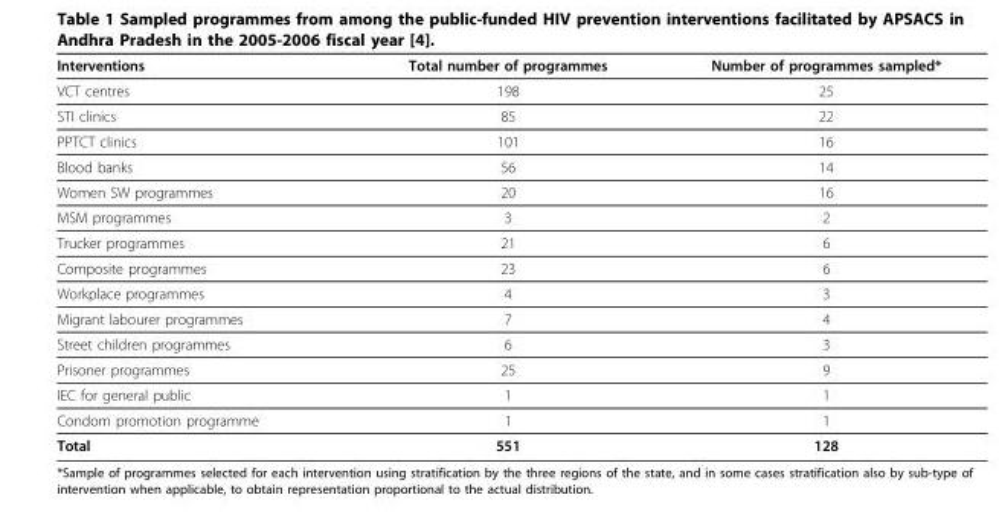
<table><thead><tr><td>Interventions</td><td>Total number of programmes</td><td>Number of programmes sampled*</td></tr></thead><tbody><tr><td>VCT centres</td><td>198</td><td>25</td></tr><tr><td>STI clinics</td><td>85</td><td>22</td></tr><tr><td>PPTCT clinics</td><td>101</td><td>16</td></tr><tr><td>Blood banks</td><td>56</td><td>14</td></tr><tr><td>Women SW programmes</td><td>20</td><td>16</td></tr><tr><td>MSM programmes</td><td>3</td><td>2</td></tr><tr><td>Trucker programmes</td><td>21</td><td>6</td></tr><tr><td>Composite programmes</td><td>23</td><td>6</td></tr><tr><td>Workplace programmes</td><td>4</td><td>3</td></tr><tr><td>Migrant labourer programmes</td><td>7</td><td>4</td></tr><tr><td>Street children programmes</td><td>6</td><td>3</td></tr><tr><td>Prisoner programmes</td><td>25</td><td>9</td></tr><tr><td>IEC for general public</td><td>1</td><td>1</td></tr><tr><td>Condom promotion programme</td><td>1</td><td>1</td></tr><tr><td>Total</td><td>551</td><td>128</td></tr></tbody></table>